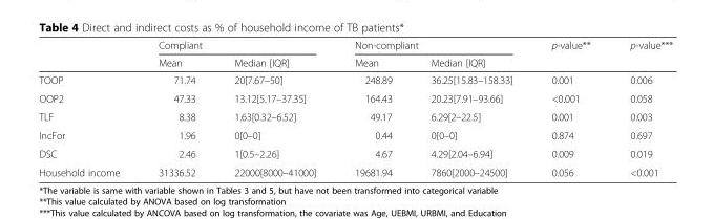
<table><thead><tr><td rowspan="2"></td><td colspan="2">Compliant</td><td colspan="2">Non-compliant</td><td rowspan="2">p-value**</td><td rowspan="2">p-value***</td></tr><tr><td>Mean</td><td>Median [IQR]</td><td>Mean</td><td>Median [IQR]</td></tr></thead><tbody><tr><td>TOOP</td><td>71.74</td><td>20[7.67–50]</td><td>248.89</td><td>36.25[15.83–158.33]</td><td>0.001</td><td>0.006</td></tr><tr><td>OOP2</td><td>47.33</td><td>13.12[5.17–37.35]</td><td>164.43</td><td>20.23[7.91–93.66]</td><td>&lt;0.001</td><td>0.058</td></tr><tr><td>TLF</td><td>8.38</td><td>1.63[0.32–6.52]</td><td>49.17</td><td>6.29[2–22.5]</td><td>0.001</td><td>0.003</td></tr><tr><td>IncFor</td><td>1.96</td><td>0[0–0]</td><td>0.44</td><td>0[0–0]</td><td>0.874</td><td>0.697</td></tr><tr><td>DSC</td><td>2.46</td><td>1[0.5–2.26]</td><td>4.67</td><td>4.29[2.04–6.94]</td><td>0.009</td><td>0.019</td></tr><tr><td>Household income</td><td>31336.52</td><td>22000[8000–41000]</td><td>19681.94</td><td>7860[2000–24500]</td><td>0.056</td><td>&lt;0.001</td></tr></tbody></table>